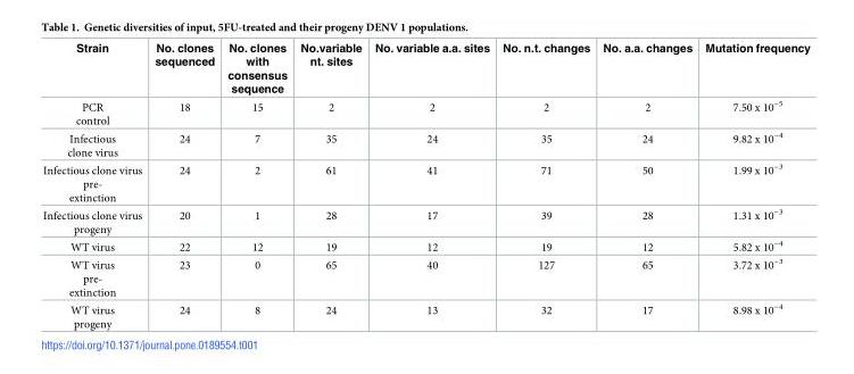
<table><thead><tr><td>Strain</td><td>No. clones sequenced</td><td>No. clones with consensus sequence</td><td>No.variable nt. sites</td><td>No. variable a.a. sites</td><td>No. n.t. changes</td><td>No. a.a. changes</td><td>Mutation frequency</td></tr></thead><tbody><tr><td>PCR control</td><td>18</td><td>15</td><td>2</td><td>2</td><td>2</td><td>2</td><td>7.50 x 10<sup>−5</sup></td></tr><tr><td>Infectious clone virus</td><td>24</td><td>7</td><td>35</td><td>24</td><td>35</td><td>24</td><td>9.82 x 10<sup>−4</sup></td></tr><tr><td>Infectious clone virus pre- extinction</td><td>24</td><td>2</td><td>61</td><td>41</td><td>71</td><td>50</td><td>1.99 x 10<sup>−3</sup></td></tr><tr><td>Infectious clone virus progeny</td><td>20</td><td>1</td><td>28</td><td>17</td><td>39</td><td>28</td><td>1.31 x 10<sup>−3</sup></td></tr><tr><td>WT virus</td><td>22</td><td>12</td><td>19</td><td>12</td><td>19</td><td>12</td><td>5.82 x 10<sup>−4</sup></td></tr><tr><td>WT virus pre- extinction</td><td>23</td><td>0</td><td>65</td><td>40</td><td>127</td><td>65</td><td>3.72 x 10<sup>−3</sup></td></tr><tr><td>WT virus progeny</td><td>24</td><td>8</td><td>24</td><td>13</td><td>32</td><td>17</td><td>8.98 x 10<sup>−4</sup></td></tr></tbody></table>